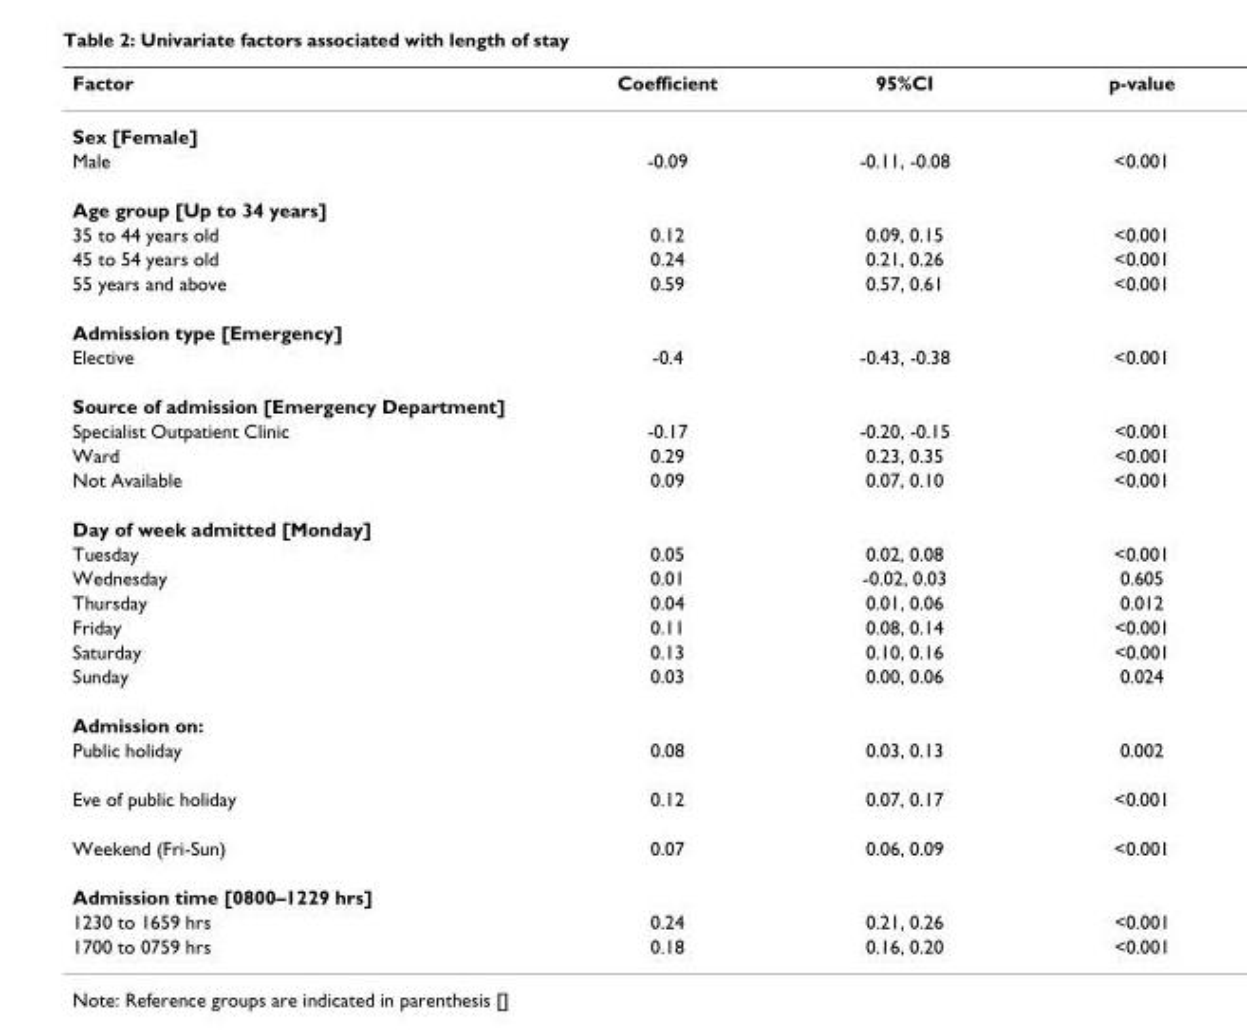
<table><thead><tr><td>Factor</td><td>Coefficient</td><td>95%CI</td><td>p-value</td></tr></thead><tbody><tr><td colspan="4">Sex [Female]</td></tr><tr><td>Male</td><td>-0.09</td><td>-0.11, -0.08</td><td>&lt;0.001</td></tr><tr><td colspan="4">Age group [Up to 34 years]</td></tr><tr><td>35 to 44 years old</td><td>0.12</td><td>0.09, 0.15</td><td>&lt;0.001</td></tr><tr><td>45 to 54 years old</td><td>0.24</td><td>0.21, 0.26</td><td>&lt;0.001</td></tr><tr><td>55 years and above</td><td>0.59</td><td>0.57, 0.61</td><td>&lt;0.001</td></tr><tr><td colspan="4">Admission type [Emergency]</td></tr><tr><td>Elective</td><td>-0.4</td><td>-0.43, -0.38</td><td>&lt;0.001</td></tr><tr><td colspan="4">Source of admission [Emergency Department]</td></tr><tr><td>Specialist Outpatient Clinic</td><td>-0.17</td><td>-0.20, -0.15</td><td>&lt;0.001</td></tr><tr><td>Ward</td><td>0.29</td><td>0.23, 0.35</td><td>&lt;0.001</td></tr><tr><td>Not Available</td><td>0.09</td><td>0.07, 0.10</td><td>&lt;0.001</td></tr><tr><td colspan="4">Day of week admitted [Monday]</td></tr><tr><td>Tuesday</td><td>0.05</td><td>0.02, 0.08</td><td>&lt;0.001</td></tr><tr><td>Wednesday</td><td>0.01</td><td>-0.02, 0.03</td><td>0.605</td></tr><tr><td>Thursday</td><td>0.04</td><td>0.01, 0.06</td><td>0.012</td></tr><tr><td>Friday</td><td>0.11</td><td>0.08, 0.14</td><td>&lt;0.001</td></tr><tr><td>Saturday</td><td>0.13</td><td>0.10, 0.16</td><td>&lt;0.001</td></tr><tr><td>Sunday</td><td>0.03</td><td>0.00, 0.06</td><td>0.024</td></tr><tr><td colspan="4">Admission on:</td></tr><tr><td>Public holiday</td><td>0.08</td><td>0.03, 0.13</td><td>0.002</td></tr><tr><td>Eve of public holiday</td><td>0.12</td><td>0.07, 0.17</td><td>&lt;0.001</td></tr><tr><td>Weekend (Fri-Sun)</td><td>0.07</td><td>0.06, 0.09</td><td>&lt;0.001</td></tr><tr><td colspan="4">Admission time [0800–1229 hrs]</td></tr><tr><td>1230 to 1659 hrs</td><td>0.24</td><td>0.21, 0.26</td><td>&lt;0.001</td></tr><tr><td>1700 to 0759 hrs</td><td>0.18</td><td>0.16, 0.20</td><td>&lt;0.001</td></tr></tbody></table>